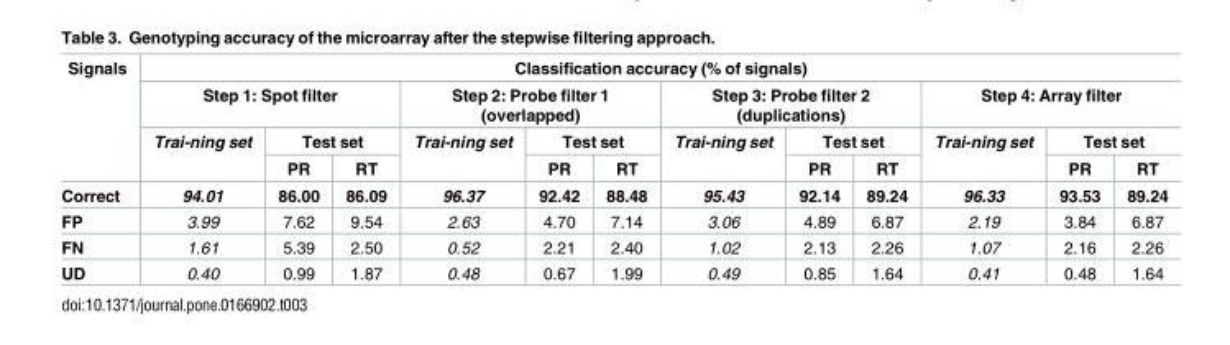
<table><thead><tr><td rowspan="4">Signals</td><td colspan="12">Classification accuracy (% of signals)</td></tr><tr><td colspan="3">Step 1: Spot filter</td><td colspan="3">Step 2: Probe filter 1 (overlapped)</td><td colspan="3">Step 3: Probe filter 2 (duplications)</td><td colspan="3">Step 4: Array filter</td></tr><tr><td rowspan="2">Trai-ning set</td><td colspan="2">Test set</td><td rowspan="2">Trai-ning set</td><td colspan="2">Test set</td><td rowspan="2">Trai-ning set</td><td colspan="2">Test set</td><td rowspan="2">Trai-ning set</td><td colspan="2">Test set</td></tr><tr><td>PR</td><td>RT</td><td>PR</td><td>RT</td><td>PR</td><td>RT</td><td>PR</td><td>RT</td></tr></thead><tbody><tr><td>Correct</td><td>94.01</td><td>86.00</td><td>86.09</td><td>96.37</td><td>92.42</td><td>88.48</td><td>95.43</td><td>92.14</td><td>89.24</td><td>96.33</td><td>93.53</td><td>89.24</td></tr><tr><td>FP</td><td>3.99</td><td>7.62</td><td>9.54</td><td>2.63</td><td>4.70</td><td>7.14</td><td>3.06</td><td>4.89</td><td>6.87</td><td>2.19</td><td>3.84</td><td>6.87</td></tr><tr><td>FN</td><td>1.61</td><td>5.39</td><td>2.50</td><td>0.52</td><td>2.21</td><td>2.40</td><td>1.02</td><td>2.13</td><td>2.26</td><td>1.07</td><td>2.16</td><td>2.26</td></tr><tr><td>UD</td><td>0.40</td><td>0.99</td><td>1.87</td><td>0.48</td><td>0.67</td><td>1.99</td><td>0.49</td><td>0.85</td><td>1.64</td><td>0.41</td><td>0.48</td><td>1.64</td></tr></tbody></table>